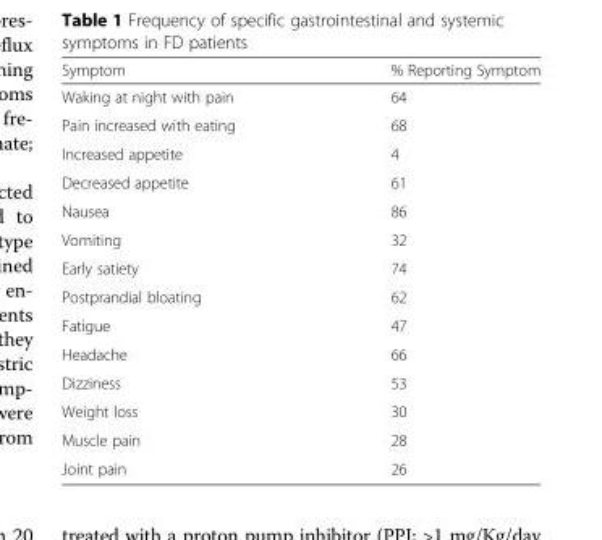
<table><thead><tr><td>Symptom</td><td>% Reporting Symptom</td></tr></thead><tbody><tr><td>Waking at night with pain</td><td>64</td></tr><tr><td>Pain increased with eating</td><td>68</td></tr><tr><td>Increased appetite</td><td>4</td></tr><tr><td>Decreased appetite</td><td>61</td></tr><tr><td>Nausea</td><td>86</td></tr><tr><td>Vomiting</td><td>32</td></tr><tr><td>Early satiety</td><td>74</td></tr><tr><td>Postprandial bloating</td><td>62</td></tr><tr><td>Fatigue</td><td>47</td></tr><tr><td>Headache</td><td>66</td></tr><tr><td>Dizziness</td><td>53</td></tr><tr><td>Weight loss</td><td>30</td></tr><tr><td>Muscle pain</td><td>28</td></tr><tr><td>Joint pain</td><td>26</td></tr></tbody></table>